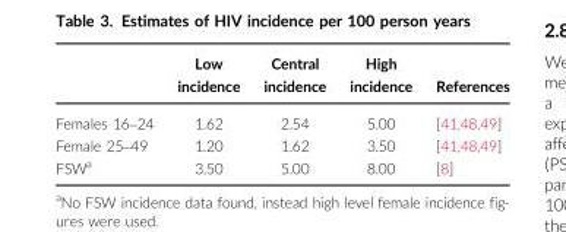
<table><thead><tr><td></td><td>Low incidence</td><td>Central incidence</td><td>High incidence</td><td>References</td></tr></thead><tbody><tr><td>Females 16–24</td><td>1.62</td><td>2.54</td><td>5.00</td><td>[41,48,49]</td></tr><tr><td>Female 25–49</td><td>1.20</td><td>1.62</td><td>3.50</td><td>[41,48,49]</td></tr><tr><td>FSW<sup>a</sup></td><td>3.50</td><td>5.00</td><td>8.00</td><td>[8]</td></tr></tbody></table>